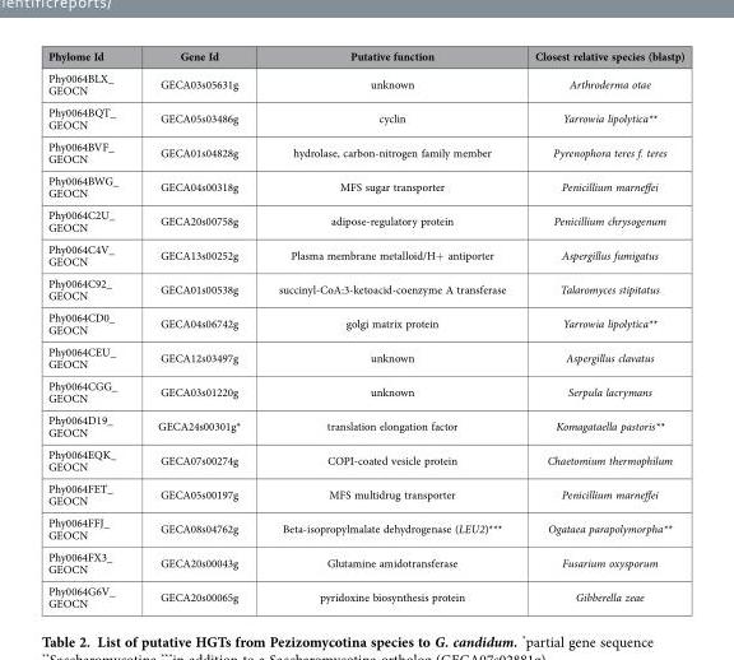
<table><thead><tr><td>Phylome Id</td><td>Gene Id</td><td>Putative function</td><td>Closest relative species (blastp)</td></tr></thead><tbody><tr><td>Phy0064BLX_ GEOCN</td><td>GECA03s05631g</td><td>unknown</td><td>Arthroderma otae</td></tr><tr><td>Phy0064BQT_ GEOCN</td><td>GECA05s03486g</td><td>cyclin</td><td>Yarrowia lipolytica**</td></tr><tr><td>Phy0064BVF_ GEOCN</td><td>GECA01s04828g</td><td>hydrolase, carbon-nitrogen family member</td><td>Pyrenophora teres f. teres</td></tr><tr><td>Phy0064BWG_ GEOCN</td><td>GECA04s00318g</td><td>MFS sugar transporter</td><td>Penicillium marneffei</td></tr><tr><td>Phy0064C2U_ GEOCN</td><td>GECA20s00758g</td><td>adipose-regulatory protein</td><td>Penicillium chrysogenum</td></tr><tr><td>Phy0064C4V_ GEOCN</td><td>GECA13s00252g</td><td>Plasma membrane metalloid/H+ antiporter</td><td>Aspergillus fumigatus</td></tr><tr><td>Phy0064C92_ GEOCN</td><td>GECA01s00538g</td><td>succinyl-CoA:3-ketoacid-coenzyme A transferase</td><td>Talaromyces stipitatus</td></tr><tr><td>Phy0064CD0_ GEOCN</td><td>GECA04s06742g</td><td>golgi matrix protein</td><td>Yarrowia lipolytica**</td></tr><tr><td>Phy0064CEU_ GEOCN</td><td>GECA12s03497g</td><td>unknown</td><td>Aspergillus clavatus</td></tr><tr><td>Phy0064CGG_ GEOCN</td><td>GECA03s01220g</td><td>unknown</td><td>Serpula lacrymans</td></tr><tr><td>Phy0064D19_ GEOCN</td><td>GECA24s00301g*</td><td>translation elongation factor</td><td>Komagataella pastoris**</td></tr><tr><td>Phy0064EQK_ GEOCN</td><td>GECA07s00274g</td><td>COPI-coated vesicle protein</td><td>Chaetomium thermophilum</td></tr><tr><td>Phy0064FET_ GEOCN</td><td>GECA05s00197g</td><td>MFS multidrug transporter</td><td>Penicillium marneffei</td></tr><tr><td>Phy0064FFJ_ GEOCN</td><td>GECA08s04762g</td><td>Beta-isopropylmalate dehydrogenase (LEU2)***</td><td>Ogataea parapolymorpha**</td></tr><tr><td>Phy0064FX3_ GEOCN</td><td>GECA20s00043g</td><td>Glutamine amidotransferase</td><td>Fusarium oxysporum</td></tr><tr><td>Phy0064G6V_ GEOCN</td><td>GECA20s00065g</td><td>pyridoxine biosynthesis protein</td><td>Gibberella zeae</td></tr></tbody></table>